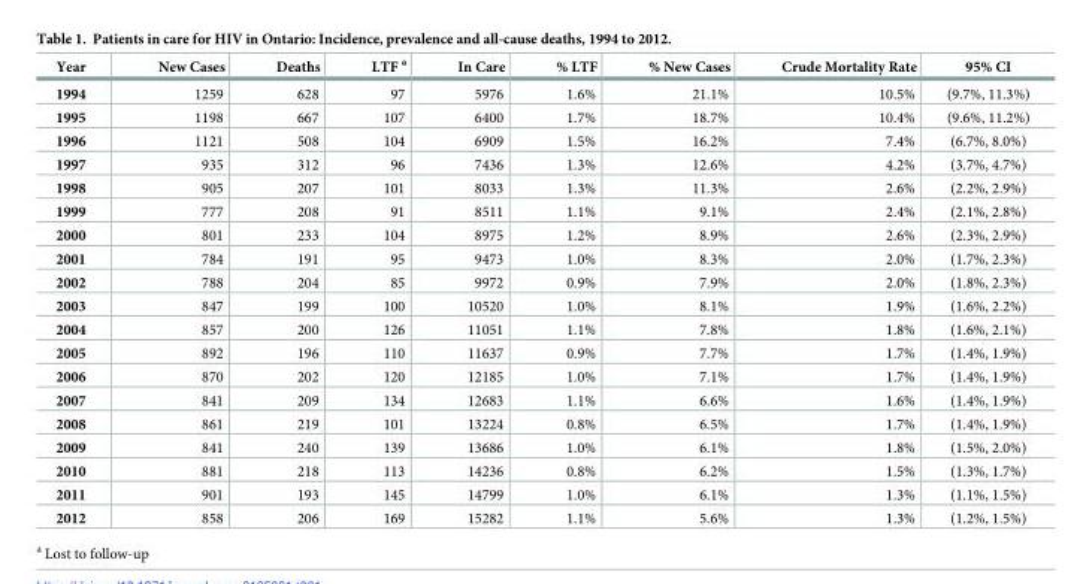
<table><thead><tr><td>Year</td><td>New Cases</td><td>Deaths</td><td>LTF <sup>a</sup></td><td>In Care</td><td>% LTF</td><td>% New Cases</td><td>Crude Mortality Rate</td><td>95% CI</td></tr></thead><tbody><tr><td>1994</td><td>1259</td><td>628</td><td>97</td><td>5976</td><td>1.6%</td><td>21.1%</td><td>10.5%</td><td>(9.7%, 11.3%)</td></tr><tr><td>1995</td><td>1198</td><td>667</td><td>107</td><td>6400</td><td>1.7%</td><td>18.7%</td><td>10.4%</td><td>(9.6%, 11.2%)</td></tr><tr><td>1996</td><td>1121</td><td>508</td><td>104</td><td>6909</td><td>1.5%</td><td>16.2%</td><td>7.4%</td><td>(6.7%, 8.0%)</td></tr><tr><td>1997</td><td>935</td><td>312</td><td>96</td><td>7436</td><td>1.3%</td><td>12.6%</td><td>4.2%</td><td>(3.7%, 4.7%)</td></tr><tr><td>1998</td><td>905</td><td>207</td><td>101</td><td>8033</td><td>1.3%</td><td>11.3%</td><td>2.6%</td><td>(2.2%, 2.9%)</td></tr><tr><td>1999</td><td>777</td><td>208</td><td>91</td><td>8511</td><td>1.1%</td><td>9.1%</td><td>2.4%</td><td>(2.1%, 2.8%)</td></tr><tr><td>2000</td><td>801</td><td>233</td><td>104</td><td>8975</td><td>1.2%</td><td>8.9%</td><td>2.6%</td><td>(2.3%, 2.9%)</td></tr><tr><td>2001</td><td>784</td><td>191</td><td>95</td><td>9473</td><td>1.0%</td><td>8.3%</td><td>2.0%</td><td>(1.7%, 2.3%)</td></tr><tr><td>2002</td><td>788</td><td>204</td><td>85</td><td>9972</td><td>0.9%</td><td>7.9%</td><td>2.0%</td><td>(1.8%, 2.3%)</td></tr><tr><td>2003</td><td>847</td><td>199</td><td>100</td><td>10520</td><td>1.0%</td><td>8.1%</td><td>1.9%</td><td>(1.6%, 2.2%)</td></tr><tr><td>2004</td><td>857</td><td>200</td><td>126</td><td>11051</td><td>1.1%</td><td>7.8%</td><td>1.8%</td><td>(1.6%, 2.1%)</td></tr><tr><td>2005</td><td>892</td><td>196</td><td>110</td><td>11637</td><td>0.9%</td><td>7.7%</td><td>1.7%</td><td>(1.4%, 1.9%)</td></tr><tr><td>2006</td><td>870</td><td>202</td><td>120</td><td>12185</td><td>1.0%</td><td>7.1%</td><td>1.7%</td><td>(1.4%, 1.9%)</td></tr><tr><td>2007</td><td>841</td><td>209</td><td>134</td><td>12683</td><td>1.1%</td><td>6.6%</td><td>1.6%</td><td>(1.4%, 1.9%)</td></tr><tr><td>2008</td><td>861</td><td>219</td><td>101</td><td>13224</td><td>0.8%</td><td>6.5%</td><td>1.7%</td><td>(1.4%, 1.9%)</td></tr><tr><td>2009</td><td>841</td><td>240</td><td>139</td><td>13686</td><td>1.0%</td><td>6.1%</td><td>1.8%</td><td>(1.5%, 2.0%)</td></tr><tr><td>2010</td><td>881</td><td>218</td><td>113</td><td>14236</td><td>0.8%</td><td>6.2%</td><td>1.5%</td><td>(1.3%, 1.7%)</td></tr><tr><td>2011</td><td>901</td><td>193</td><td>145</td><td>14799</td><td>1.0%</td><td>6.1%</td><td>1.3%</td><td>(1.1%, 1.5%)</td></tr><tr><td>2012</td><td>858</td><td>206</td><td>169</td><td>15282</td><td>1.1%</td><td>5.6%</td><td>1.3%</td><td>(1.2%, 1.5%)</td></tr></tbody></table>